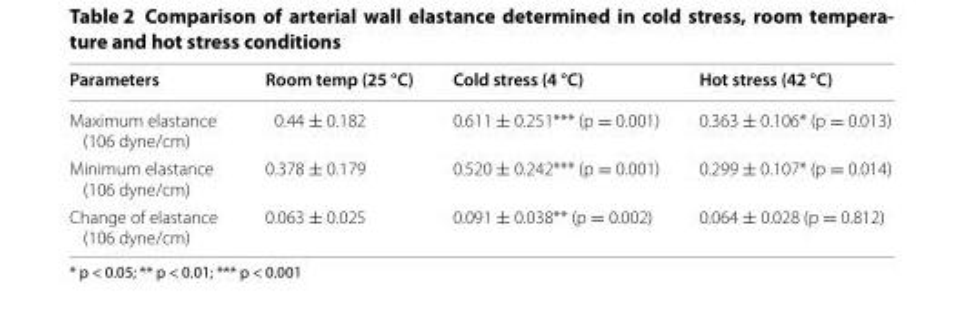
<table><thead><tr><td>Parameters</td><td>Room temp (25 °C)</td><td>Cold stress (4 °C)</td><td>Hot stress (42 °C)</td></tr></thead><tbody><tr><td>Maximum elastance (106 dyne/cm)</td><td>0.44 ± 0.182</td><td>0.611 ± 0.251*** (p = 0.001)</td><td>0.363 ± 0.106* (p = 0.013)</td></tr><tr><td>Minimum elastance (106 dyne/cm)</td><td>0.378 ± 0.179</td><td>0.520 ± 0.242*** (p = 0.001)</td><td>0.299 ± 0.107* (p = 0.014)</td></tr><tr><td>Change of elastance (106 dyne/cm)</td><td>0.063 ± 0.025</td><td>0.091 ± 0.038** (p = 0.002)</td><td>0.064 ± 0.028 (p = 0.812)</td></tr></tbody></table>